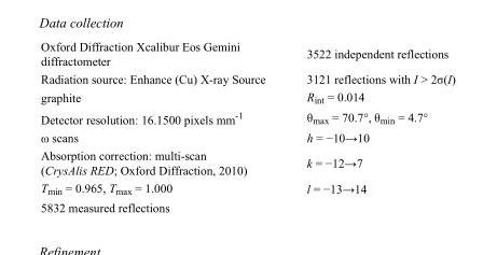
<table><tbody><tr><td>Oxford Diffraction Xcalibur Eos Gemini diffractometer</td><td>3522 independent reflections</td></tr><tr><td>Radiation source: Enhance (Cu) X-ray Source</td><td>3121 reflections with I &gt; 2σ(I)</td></tr><tr><td>graphite</td><td>R<sub>int</sub> = 0.014</td></tr><tr><td>Detector resolution: 16.1500 pixels mm<sup>-1</sup></td><td>θ<sub>max</sub> = 70.7°, θ<sub>min</sub> = 4.7°</td></tr><tr><td>ω scans</td><td>h = −10→10</td></tr><tr><td>Absorption correction: multi-scan (CrysAlis RED; Oxford Diffraction, 2010)</td><td>k = −12→7</td></tr><tr><td>T<sub>min</sub> = 0.965, T<sub>max</sub> = 1.000</td><td>l = −13→14</td></tr><tr><td>5832 measured reflections</td><td></td></tr></tbody></table>